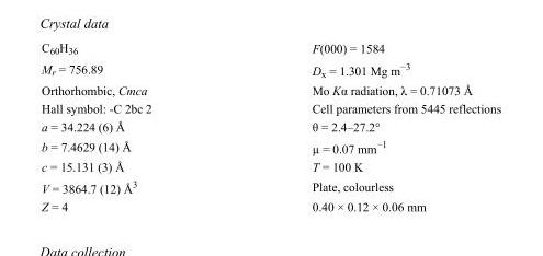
<table><tbody><tr><td>C<sub>60</sub>H<sub>36</sub></td><td>F(000) = 1584</td></tr><tr><td>M<sub>r</sub> = 756.89</td><td>D<sub>x</sub> = 1.301 Mg m<sup>−3</sup></td></tr><tr><td>Orthorhombic, Cmca</td><td>Mo Kα radiation, λ = 0.71073 Å</td></tr><tr><td>Hall symbol: -C 2bc 2</td><td>Cell parameters from 5445 reflections</td></tr><tr><td>a = 34.224 (6) Å</td><td>θ = 2.4–27.2°</td></tr><tr><td>b = 7.4629 (14) Å</td><td>µ = 0.07 mm<sup>−1</sup></td></tr><tr><td>c = 15.131 (3) Å</td><td>T = 100 K</td></tr><tr><td>V = 3864.7 (12) Å<sup>3</sup></td><td>Plate, colourless</td></tr><tr><td>Z = 4</td><td>0.40 × 0.12 × 0.06 mm</td></tr></tbody></table>